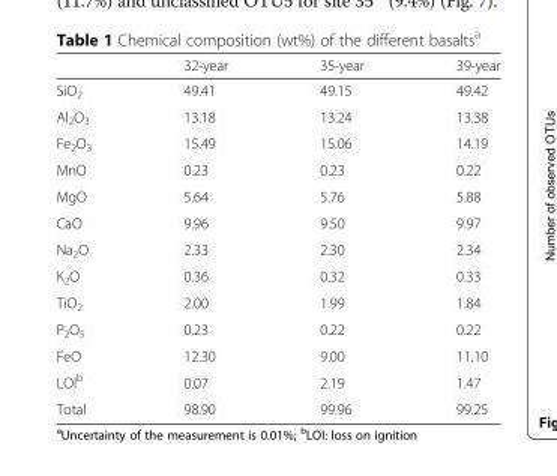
<table><thead><tr><td></td><td>32-year</td><td>35-year</td><td>39-year</td></tr></thead><tbody><tr><td>SiO<sub>2</sub></td><td>49.41</td><td>49.15</td><td>49.42</td></tr><tr><td>Al<sub>2</sub>O<sub>3</sub></td><td>13.18</td><td>13.24</td><td>13.38</td></tr><tr><td>Fe<sub>2</sub>O<sub>3</sub></td><td>15.49</td><td>15.06</td><td>14.19</td></tr><tr><td>MnO</td><td>0.23</td><td>0.23</td><td>0.22</td></tr><tr><td>MgO</td><td>5.64</td><td>5.76</td><td>5.88</td></tr><tr><td>CaO</td><td>9.96</td><td>9.50</td><td>9.97</td></tr><tr><td>Na<sub>2</sub>O</td><td>2.33</td><td>2.30</td><td>2.34</td></tr><tr><td>K<sub>2</sub>O</td><td>0.36</td><td>0.32</td><td>0.33</td></tr><tr><td>TiO<sub>2</sub></td><td>2.00</td><td>1.99</td><td>1.84</td></tr><tr><td>P<sub>2</sub>O<sub>5</sub></td><td>0.23</td><td>0.22</td><td>0.22</td></tr><tr><td>FeO</td><td>12.30</td><td>9.00</td><td>11.10</td></tr><tr><td>LOI<sup>b</sup></td><td>0.07</td><td>2.19</td><td>1.47</td></tr><tr><td>Total</td><td>98.90</td><td>99.96</td><td>99.25</td></tr></tbody></table>